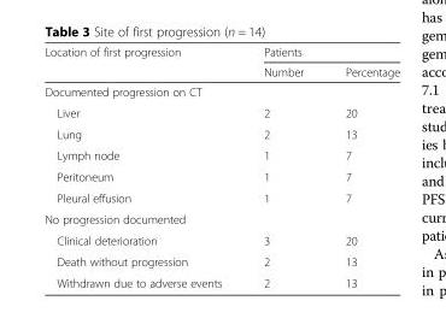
<table><thead><tr><td rowspan="2">Location of first progression</td><td colspan="2">Patients</td></tr><tr><td>Number</td><td>Percentage</td></tr></thead><tbody><tr><td colspan="3">Documented progression on CT</td></tr><tr><td>Liver</td><td>2</td><td>20</td></tr><tr><td>Lung</td><td>2</td><td>13</td></tr><tr><td>Lymph node</td><td>1</td><td>7</td></tr><tr><td>Peritoneum</td><td>1</td><td>7</td></tr><tr><td>Pleural effusion</td><td>1</td><td>7</td></tr><tr><td colspan="3">No progression documented</td></tr><tr><td>Clinical deterioration</td><td>3</td><td>20</td></tr><tr><td>Death without progression</td><td>2</td><td>13</td></tr><tr><td>Withdrawn due to adverse events</td><td>2</td><td>13</td></tr></tbody></table>